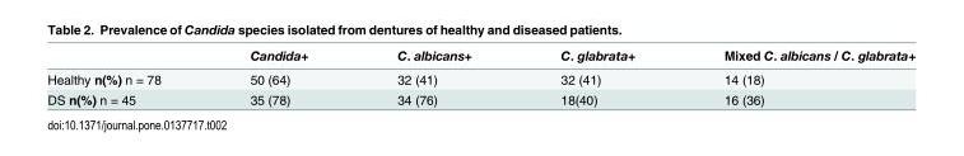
<table><thead><tr><td></td><td>Candida+</td><td>C. albicans+</td><td>C. glabrata+</td><td>Mixed C. albicans / C. glabrata+</td></tr></thead><tbody><tr><td>Healthy n(%) n = 78</td><td>50 (64)</td><td>32 (41)</td><td>32 (41)</td><td>14 (18)</td></tr><tr><td>DS n(%) n = 45</td><td>35 (78)</td><td>34 (76)</td><td>18(40)</td><td>16 (36)</td></tr></tbody></table>